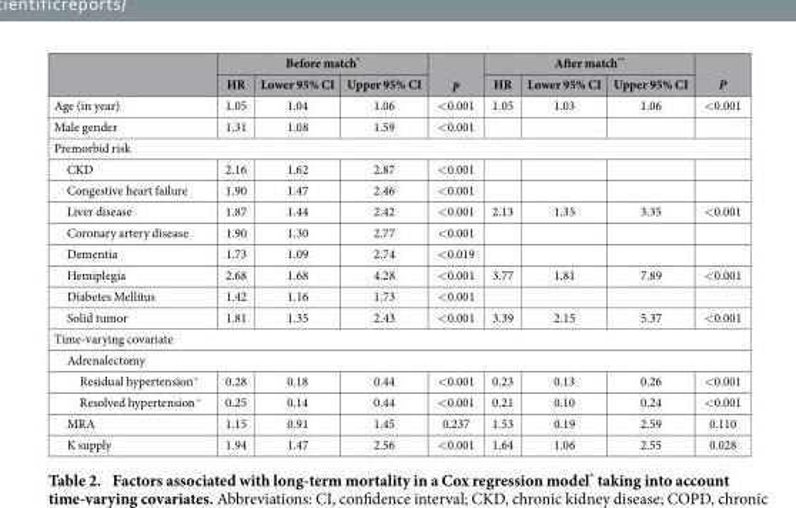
<table><thead><tr><td rowspan="2"></td><td colspan="3">Before match*</td><td rowspan="2">p</td><td colspan="3">After match**</td><td rowspan="2">P</td></tr><tr><td>HR</td><td>Lower 95% CI</td><td>Upper 95% CI</td><td>HR</td><td>Lower 95% CI</td><td>Upper 95% CI</td></tr></thead><tbody><tr><td>Age (in year)</td><td>1.05</td><td>1.04</td><td>1.06</td><td>&lt; 0.001</td><td>1.05</td><td>1.03</td><td>1.06</td><td>&lt; 0.001</td></tr><tr><td>Male gender</td><td>1.31</td><td>1.08</td><td>1.59</td><td>&lt; 0.001</td><td></td><td></td><td></td><td></td></tr><tr><td colspan="9">Premorbid risk</td></tr><tr><td>CKD</td><td>2.16</td><td>1.62</td><td>2.87</td><td>&lt; 0.001</td><td></td><td></td><td></td><td></td></tr><tr><td>Congestive heart failure</td><td>1.90</td><td>1.47</td><td>2.46</td><td>&lt; 0.001</td><td></td><td></td><td></td><td></td></tr><tr><td>Liver disease</td><td>1.87</td><td>1.44</td><td>2.42</td><td>&lt; 0.001</td><td>2.13</td><td>1.35</td><td>3.35</td><td>&lt; 0.001</td></tr><tr><td>Coronary artery disease</td><td>1.90</td><td>1.30</td><td>2.77</td><td>&lt; 0.001</td><td></td><td></td><td></td><td></td></tr><tr><td>Dementia</td><td>1.73</td><td>1.09</td><td>2.74</td><td>&lt; 0.019</td><td></td><td></td><td></td><td></td></tr><tr><td>Hemiplegia</td><td>2.68</td><td>1.68</td><td>4.28</td><td>&lt; 0.001</td><td>3.77</td><td>1.81</td><td>7.89</td><td>&lt; 0.001</td></tr><tr><td>Diabetes Mellitus</td><td>1.42</td><td>1.16</td><td>1.73</td><td>&lt; 0.001</td><td></td><td></td><td></td><td></td></tr><tr><td>Solid tumor</td><td>1.81</td><td>1.35</td><td>2.43</td><td>&lt; 0.001</td><td>3.39</td><td>2.15</td><td>5.37</td><td>&lt; 0.001</td></tr><tr><td colspan="9">Time-varying covariate</td></tr><tr><td colspan="9">Adrenalectomy</td></tr><tr><td>Residual hypertension+</td><td>0.28</td><td>0.18</td><td>0.44</td><td>&lt; 0.001</td><td>0.23</td><td>0.13</td><td>0.26</td><td>&lt; 0.001</td></tr><tr><td>Resolved hypertension+</td><td>0.25</td><td>0.14</td><td>0.44</td><td>&lt; 0.001</td><td>0.21</td><td>0.10</td><td>0.24</td><td>&lt; 0.001</td></tr><tr><td>MRA</td><td>1.15</td><td>0.91</td><td>1.45</td><td>0.237</td><td>1.53</td><td>0.19</td><td>2.59</td><td>0.110</td></tr><tr><td>K supply</td><td>1.94</td><td>1.47</td><td>2.56</td><td>&lt; 0.001</td><td>1.64</td><td>1.06</td><td>2.55</td><td>0.028</td></tr></tbody></table>